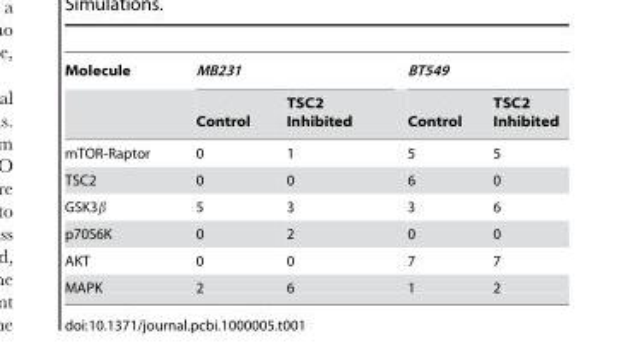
<table><thead><tr><td rowspan="2">Molecule</td><td colspan="2">MB231</td><td colspan="2">BT549</td></tr><tr><td>Control</td><td>TSC2 Inhibited</td><td>Control</td><td>TSC2 Inhibited</td></tr></thead><tbody><tr><td>mTOR-Raptor</td><td>0</td><td>1</td><td>5</td><td>5</td></tr><tr><td>TSC2</td><td>0</td><td>0</td><td>6</td><td>0</td></tr><tr><td>GSK3β</td><td>5</td><td>3</td><td>3</td><td>6</td></tr><tr><td>p70S6K</td><td>0</td><td>2</td><td>0</td><td>0</td></tr><tr><td>AKT</td><td>0</td><td>0</td><td>7</td><td>7</td></tr><tr><td>MAPK</td><td>2</td><td>6</td><td>1</td><td>2</td></tr></tbody></table>